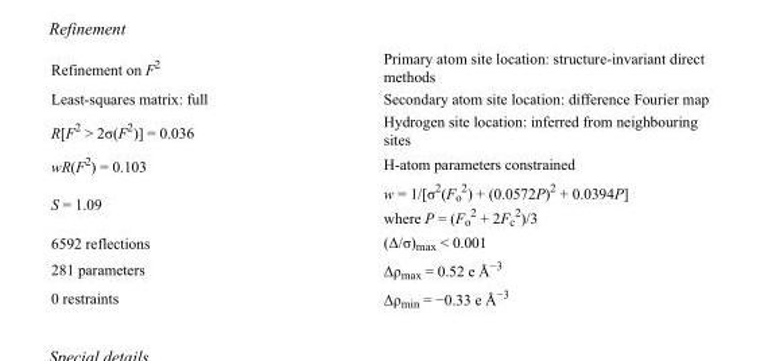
<table><tbody><tr><td>Refinement on F<sup>2</sup></td><td>Primary atom site location: structure-invariant direct methods</td></tr><tr><td>Least-squares matrix: full</td><td>Secondary atom site location: difference Fourier map</td></tr><tr><td>R[F<sup>2</sup> &gt; 2σ(F<sup>2</sup>)] = 0.036</td><td>Hydrogen site location: inferred from neighbouring sites</td></tr><tr><td>wR(F<sup>2</sup>) = 0.103</td><td>H-atom parameters constrained</td></tr><tr><td>S = 1.09</td><td>w = 1/[σ<sup>2</sup>(F<sub>o</sub> <sup>2</sup>) + (0.0572P)<sup>2</sup> + 0.0394P] where P = (F<sub>o</sub> <sup>2</sup> + 2F<sub>c</sub> <sup>2</sup>)/3</td></tr><tr><td>6592 reflections</td><td>(Δ/σ)<sub>max</sub> &lt; 0.001</td></tr><tr><td>281 parameters</td><td>Δρ<sub>max</sub> = 0.52 e Å<sup>−3</sup></td></tr><tr><td>0 restraints</td><td>Δρ<sub>min</sub> = −0.33 e Å<sup>−3</sup></td></tr></tbody></table>